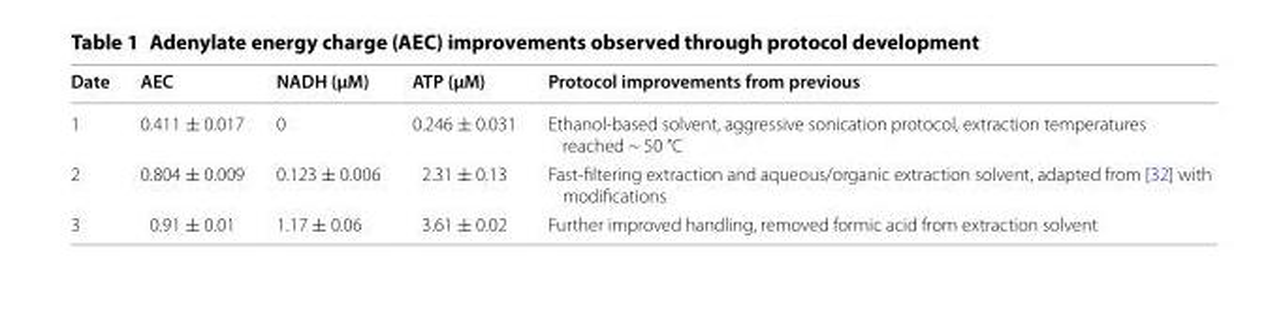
<table><thead><tr><td>Date</td><td>AEC</td><td>NADH (µM)</td><td>ATP (µM)</td><td>Protocol improvements from previous</td></tr></thead><tbody><tr><td>1</td><td>0.411 ± 0.017</td><td>0</td><td>0.246 ± 0.031</td><td>Ethanol-based solvent, aggressive sonication protocol, extraction temperatures reached ~ 50 °C</td></tr><tr><td>2</td><td>0.804 ± 0.009</td><td>0.123 ± 0.006</td><td>2.31 ± 0.13</td><td>Fast-filtering extraction and aqueous/organic extraction solvent, adapted from [32] with modifications</td></tr><tr><td>3</td><td>0.91 ± 0.01</td><td>1.17 ± 0.06</td><td>3.61 ± 0.02</td><td>Further improved handling, removed formic acid from extraction solvent</td></tr></tbody></table>